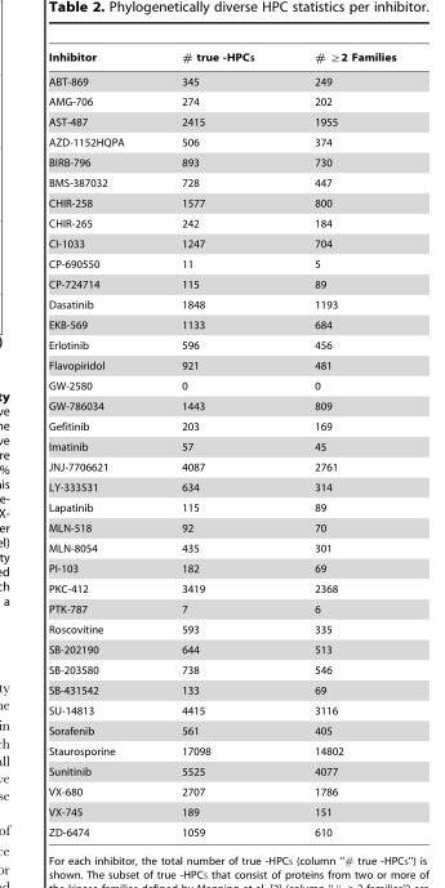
<table><thead><tr><td>Inhibitor</td><td># true -HPCS</td><td># §2 Families</td></tr></thead><tbody><tr><td>ABT-869</td><td>345</td><td>249</td></tr><tr><td>AMG-706</td><td>274</td><td>202</td></tr><tr><td>AST-487</td><td>2415</td><td>1955</td></tr><tr><td>AZD-1152HQPA</td><td>506</td><td>374</td></tr><tr><td>BIRB-796</td><td>893</td><td>730</td></tr><tr><td>BMS-387032</td><td>728</td><td>447</td></tr><tr><td>CHIR-258</td><td>1577</td><td>800</td></tr><tr><td>CHIR-265</td><td>242</td><td>184</td></tr><tr><td>CI-1033</td><td>1247</td><td>704</td></tr><tr><td>CP-690550</td><td>11</td><td>5</td></tr><tr><td>CP-724714</td><td>115</td><td>89</td></tr><tr><td>Dasatinib</td><td>1848</td><td>1193</td></tr><tr><td>EKB-569</td><td>1133</td><td>684</td></tr><tr><td>Erlotinib</td><td>596</td><td>456</td></tr><tr><td>Flavopiridol</td><td>921</td><td>481</td></tr><tr><td>GW-2580</td><td>0</td><td>0</td></tr><tr><td>GW-786034</td><td>1443</td><td>809</td></tr><tr><td>Gefitinib</td><td>203</td><td>169</td></tr><tr><td>Imatinib</td><td>57</td><td>45</td></tr><tr><td>JNJ-7706621</td><td>4087</td><td>2761</td></tr><tr><td>LY-333531</td><td>634</td><td>314</td></tr><tr><td>Lapatinib</td><td>115</td><td>89</td></tr><tr><td>MLN-518</td><td>92</td><td>70</td></tr><tr><td>MLN-8054</td><td>435</td><td>301</td></tr><tr><td>PI-103</td><td>182</td><td>69</td></tr><tr><td>PKC-412</td><td>3419</td><td>2368</td></tr><tr><td>PTK-787</td><td>7</td><td>6</td></tr><tr><td>Roscovitine</td><td>593</td><td>335</td></tr><tr><td>SB-202190</td><td>644</td><td>513</td></tr><tr><td>SB-203580</td><td>738</td><td>546</td></tr><tr><td>SB-431542</td><td>133</td><td>69</td></tr><tr><td>SU-14813</td><td>4415</td><td>3116</td></tr><tr><td>Sorafenib</td><td>561</td><td>405</td></tr><tr><td>Staurosporine</td><td>17098</td><td>14802</td></tr><tr><td>Sunitinib</td><td>5525</td><td>4077</td></tr><tr><td>VX-680</td><td>2707</td><td>1786</td></tr><tr><td>VX-745</td><td>189</td><td>151</td></tr><tr><td>ZD-6474</td><td>1059</td><td>610</td></tr></tbody></table>